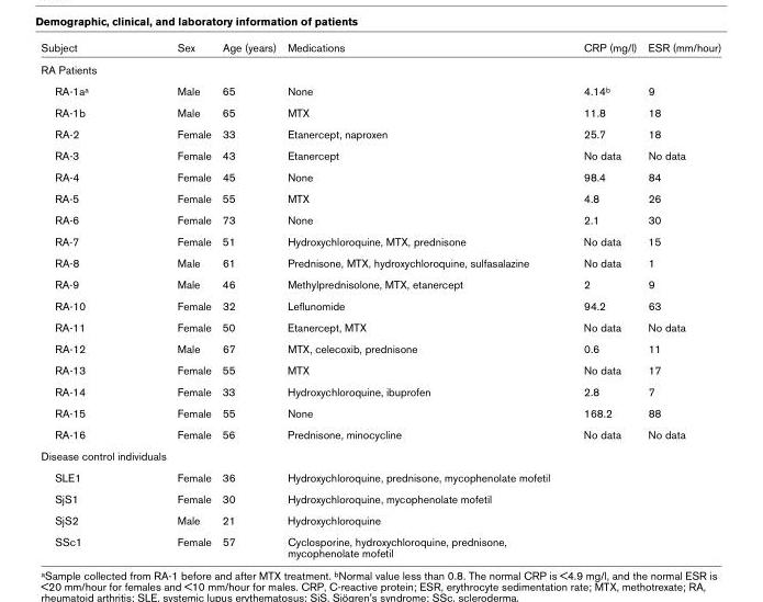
<table><thead><tr><td>Subject</td><td>Sex</td><td>Age (years)</td><td>Medications</td><td>CRP (mg/l)</td><td>ESR (mm/hour)</td></tr></thead><tbody><tr><td colspan="6">RA Patients</td></tr><tr><td>RA-1a<sup>a</sup></td><td>Male</td><td>65</td><td>None</td><td>4.14<sup>b</sup></td><td>9</td></tr><tr><td>RA-1b</td><td>Male</td><td>65</td><td>MTX</td><td>11.8</td><td>18</td></tr><tr><td>RA-2</td><td>Female</td><td>33</td><td>Etanercept, naproxen</td><td>25.7</td><td>18</td></tr><tr><td>RA-3</td><td>Female</td><td>43</td><td>Etanercept</td><td>No data</td><td>No data</td></tr><tr><td>RA-4</td><td>Female</td><td>45</td><td>None</td><td>98.4</td><td>84</td></tr><tr><td>RA-5</td><td>Female</td><td>55</td><td>MTX</td><td>4.8</td><td>26</td></tr><tr><td>RA-6</td><td>Female</td><td>73</td><td>None</td><td>2.1</td><td>30</td></tr><tr><td>RA-7</td><td>Female</td><td>51</td><td>Hydroxychloroquine, MTX, prednisone</td><td>No data</td><td>15</td></tr><tr><td>RA-8</td><td>Male</td><td>61</td><td>Prednisone, MTX, hydroxychloroquine, sulfasalazine</td><td>No data</td><td>1</td></tr><tr><td>RA-9</td><td>Male</td><td>46</td><td>Methylprednisolone, MTX, etanercept</td><td>2</td><td>9</td></tr><tr><td>RA-10</td><td>Female</td><td>32</td><td>Leflunomide</td><td>94.2</td><td>63</td></tr><tr><td>RA-11</td><td>Female</td><td>50</td><td>Etanercept, MTX</td><td>No data</td><td>No data</td></tr><tr><td>RA-12</td><td>Male</td><td>67</td><td>MTX, celecoxib, prednisone</td><td>0.6</td><td>11</td></tr><tr><td>RA-13</td><td>Female</td><td>55</td><td>MTX</td><td>No data</td><td>17</td></tr><tr><td>RA-14</td><td>Female</td><td>33</td><td>Hydroxychloroquine, ibuprofen</td><td>2.8</td><td>7</td></tr><tr><td>RA-15</td><td>Female</td><td>55</td><td>None</td><td>168.2</td><td>88</td></tr><tr><td>RA-16</td><td>Female</td><td>56</td><td>Prednisone, minocycline</td><td>No data</td><td>No data</td></tr><tr><td colspan="6">Disease control individuals</td></tr><tr><td>SLE1</td><td>Female</td><td>36</td><td>Hydroxychloroquine, prednisone, mycophenolate mofetil</td><td></td><td></td></tr><tr><td>SjS1</td><td>Female</td><td>30</td><td>Hydroxychloroquine, mycophenolate mofetil</td><td></td><td></td></tr><tr><td>SjS2</td><td>Male</td><td>21</td><td>Hydroxychloroquine</td><td></td><td></td></tr><tr><td>SSc1</td><td>Female</td><td>57</td><td>Cyclosporine, hydroxychloroquine, prednisone, mycophenolate mofetil</td><td></td><td></td></tr></tbody></table>